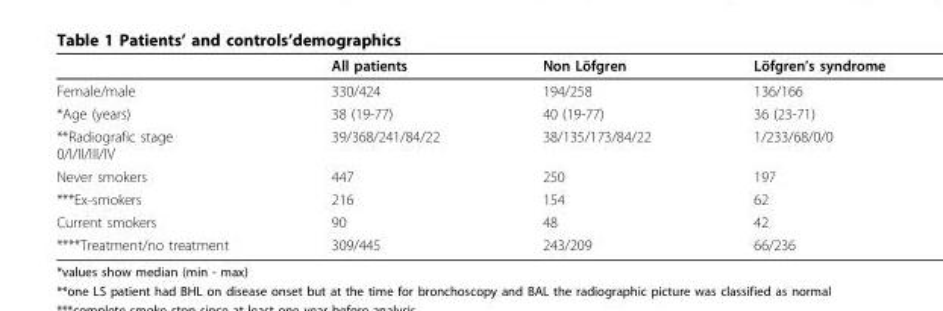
<table><thead><tr><td></td><td>All patients</td><td>Non Löfgren</td><td>Löfgren’s syndrome</td></tr></thead><tbody><tr><td>Female/male</td><td>330/424</td><td>194/258</td><td>136/166</td></tr><tr><td>*Age (years)</td><td>38 (19-77)</td><td>40 (19-77)</td><td>36 (23-71)</td></tr><tr><td>**Radiografic stage 0/I/II/III/IV</td><td>39/368/241/84/22</td><td>38/135/173/84/22</td><td>1/233/68/0/0</td></tr><tr><td>Never smokers</td><td>447</td><td>250</td><td>197</td></tr><tr><td>***Ex-smokers</td><td>216</td><td>154</td><td>62</td></tr><tr><td>Current smokers</td><td>90</td><td>48</td><td>42</td></tr><tr><td>****Treatment/no treatment</td><td>309/445</td><td>243/209</td><td>66/236</td></tr></tbody></table>